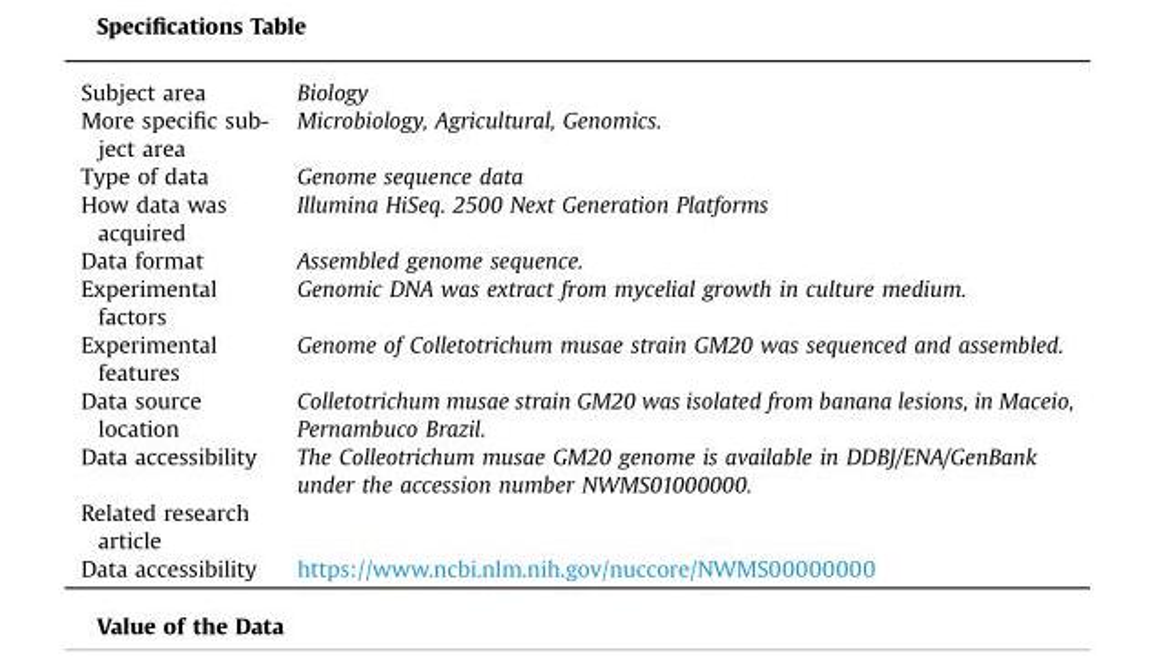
<table><tbody><tr><td>Subject area</td><td>Biology</td></tr><tr><td>More specific sub- ject area</td><td>Microbiology, Agricultural, Genomics.</td></tr><tr><td>Type of data</td><td>Genome sequence data</td></tr><tr><td>How data was acquired</td><td>Illumina HiSeq. 2500 Next Generation Platforms</td></tr><tr><td>Data format</td><td>Assembled genome sequence.</td></tr><tr><td>Experimental factors</td><td>Genomic DNA was extract from mycelial growth in culture medium.</td></tr><tr><td>Experimental features</td><td>Genome of Colletotrichum musae strain GM20 was sequenced and assembled.</td></tr><tr><td>Data source location</td><td>Colletotrichum musae strain GM20 was isolated from banana lesions, in Maceio, Pernambuco Brazil.</td></tr><tr><td>Data accessibility</td><td>The Colleotrichum musae GM20 genome is available in DDBJ/ENA/GenBank under the accession number NWMS01000000.</td></tr><tr><td colspan="2">Related research article</td></tr><tr><td>Data accessibility</td><td>https://www.ncbi.nlm.nih.gov/nuccore/NWMS00000000</td></tr></tbody></table>